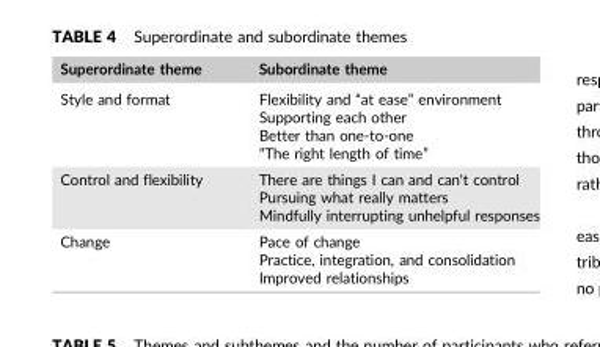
<table><thead><tr><td>Superordinate theme</td><td>Subordinate theme</td></tr></thead><tbody><tr><td>Style and format</td><td>Flexibility and “at ease” environment Supporting each other Better than one‐to‐one “The right length of time”</td></tr><tr><td>Control and flexibility</td><td>There are things I can and can&#x27;t control Pursuing what really matters Mindfully interrupting unhelpful responses</td></tr><tr><td>Change</td><td>Pace of change Practice, integration, and consolidation Improved relationships</td></tr></tbody></table>